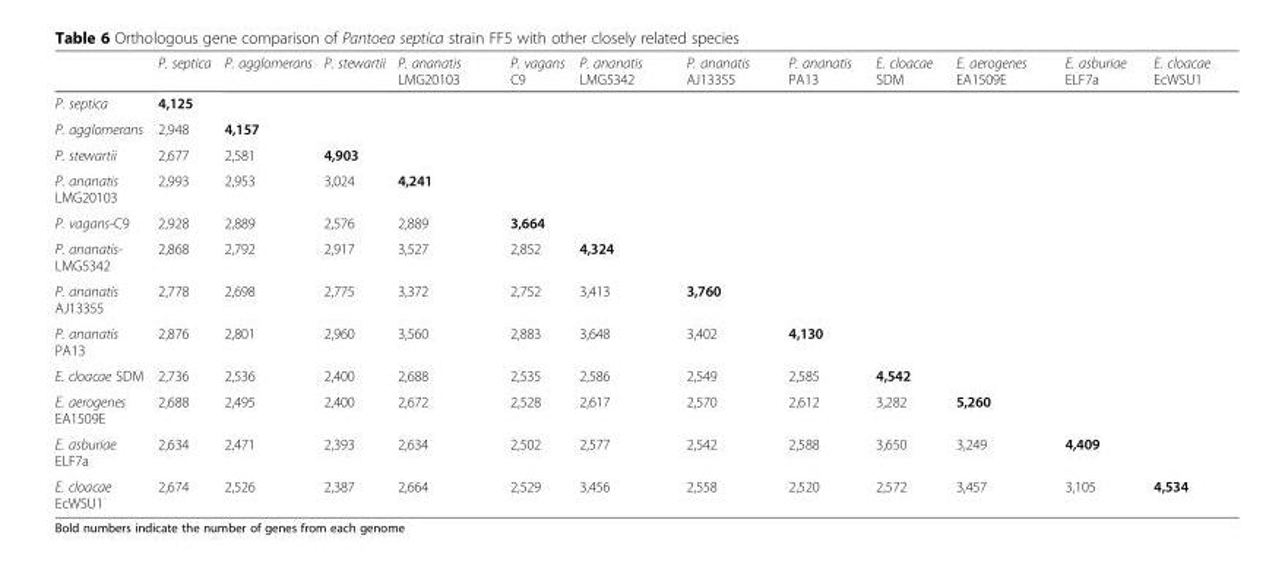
<table><thead><tr><td></td><td>P. septica</td><td>P. agglomerans</td><td>P. stewartii</td><td>P. ananatis LMG20103</td><td>P. vagans C9</td><td>P. ananatis LMG5342</td><td>P. ananatis AJ13355</td><td>P. ananatis PA13</td><td>E. cloacae SDM</td><td>E. aerogenes EA1509E</td><td>E. asburiae ELF7a</td><td>E. cloacae EcWSU1</td></tr></thead><tbody><tr><td>P. septica</td><td>4,125</td><td></td><td></td><td></td><td></td><td></td><td></td><td></td><td></td><td></td><td></td><td></td></tr><tr><td>P. agglomerans</td><td>2,948</td><td>4,157</td><td></td><td></td><td></td><td></td><td></td><td></td><td></td><td></td><td></td><td></td></tr><tr><td>P. stewartii</td><td>2,677</td><td>2,581</td><td>4,903</td><td></td><td></td><td></td><td></td><td></td><td></td><td></td><td></td><td></td></tr><tr><td>P. ananatis LMG20103</td><td>2,993</td><td>2,953</td><td>3,024</td><td>4,241</td><td></td><td></td><td></td><td></td><td></td><td></td><td></td><td></td></tr><tr><td>P. vagans-C9</td><td>2,928</td><td>2,889</td><td>2,576</td><td>2,889</td><td>3,664</td><td></td><td></td><td></td><td></td><td></td><td></td><td></td></tr><tr><td>P. ananatis- LMG5342</td><td>2,868</td><td>2,792</td><td>2,917</td><td>3,527</td><td>2,852</td><td>4,324</td><td></td><td></td><td></td><td></td><td></td><td></td></tr><tr><td>P. ananatis AJ13355</td><td>2,778</td><td>2,698</td><td>2,775</td><td>3,372</td><td>2,752</td><td>3,413</td><td>3,760</td><td></td><td></td><td></td><td></td><td></td></tr><tr><td>P. ananatis PA13</td><td>2,876</td><td>2,801</td><td>2,960</td><td>3,560</td><td>2,883</td><td>3,648</td><td>3,402</td><td>4,130</td><td></td><td></td><td></td><td></td></tr><tr><td>E. cloacae SDM</td><td>2,736</td><td>2,536</td><td>2,400</td><td>2,688</td><td>2,535</td><td>2,586</td><td>2,549</td><td>2,585</td><td>4,542</td><td></td><td></td><td></td></tr><tr><td>E. aerogenes EA1509E</td><td>2,688</td><td>2,495</td><td>2,400</td><td>2,672</td><td>2,528</td><td>2,617</td><td>2,570</td><td>2,612</td><td>3,282</td><td>5,260</td><td></td><td></td></tr><tr><td>E. asburiae ELF7a</td><td>2,634</td><td>2,471</td><td>2,393</td><td>2,634</td><td>2,502</td><td>2,577</td><td>2,542</td><td>2,588</td><td>3,650</td><td>3,249</td><td>4,409</td><td></td></tr><tr><td>E. cloacae EcWSU1</td><td>2,674</td><td>2,526</td><td>2,387</td><td>2,664</td><td>2,529</td><td>3,456</td><td>2,558</td><td>2,520</td><td>2,572</td><td>3,457</td><td>3,105</td><td>4,534</td></tr></tbody></table>